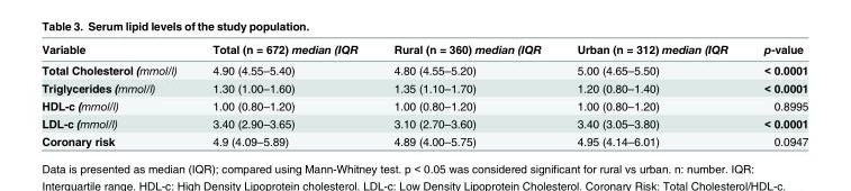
<table><thead><tr><td>Variable</td><td>Total (n = 672) median (IQR</td><td>Rural (n = 360) median (IQR</td><td>Urban (n = 312) median (IQR</td><td>p-value</td></tr></thead><tbody><tr><td>Total Cholesterol (mmol/l)</td><td>4.90 (4.55–5.40)</td><td>4.80 (4.55–5.20)</td><td>5.00 (4.65–5.50)</td><td>&lt; 0.0001</td></tr><tr><td>Triglycerides (mmol/l)</td><td>1.30 (1.00–1.60)</td><td>1.35 (1.10–1.70)</td><td>1.20 (0.80–1.40)</td><td>&lt; 0.0001</td></tr><tr><td>HDL-c (mmol/l)</td><td>1.00 (0.80–1.20)</td><td>1.00 (0.80–1.20)</td><td>1.00 (0.80–1.20)</td><td>0.8995</td></tr><tr><td>LDL-c (mmol/l)</td><td>3.40 (2.90–3.65)</td><td>3.10 (2.70–3.60)</td><td>3.40 (3.05–3.80)</td><td>&lt; 0.0001</td></tr><tr><td>Coronary risk</td><td>4.9 (4.09–5.89)</td><td>4.89 (4.00–5.75)</td><td>4.95 (4.14–6.01)</td><td>0.0947</td></tr></tbody></table>